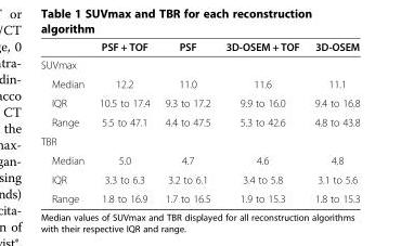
<table><thead><tr><td></td><td>PSF + TOF</td><td>PSF</td><td>3D-OSEM + TOF</td><td>3D-OSEM</td></tr></thead><tbody><tr><td colspan="5">SUVmax</td></tr><tr><td>Median</td><td>12.2</td><td>11.0</td><td>11.6</td><td>11.1</td></tr><tr><td>IQR</td><td>10.5 to 17.4</td><td>9.3 to 17.2</td><td>9.9 to 16.0</td><td>9.4 to 16.8</td></tr><tr><td>Range</td><td>5.5 to 47.1</td><td>4.4 to 47.5</td><td>5.3 to 42.6</td><td>4.8 to 43.8</td></tr><tr><td colspan="5">TBR</td></tr><tr><td>Median</td><td>5.0</td><td>4.7</td><td>4.6</td><td>4.8</td></tr><tr><td>IQR</td><td>3.3 to 6.3</td><td>3.2 to 6.1</td><td>3.4 to 5.8</td><td>3.1 to 5.6</td></tr><tr><td>Range</td><td>1.8 to 16.9</td><td>1.7 to 16.5</td><td>1.9 to 15.3</td><td>1.8 to 15.3</td></tr></tbody></table>